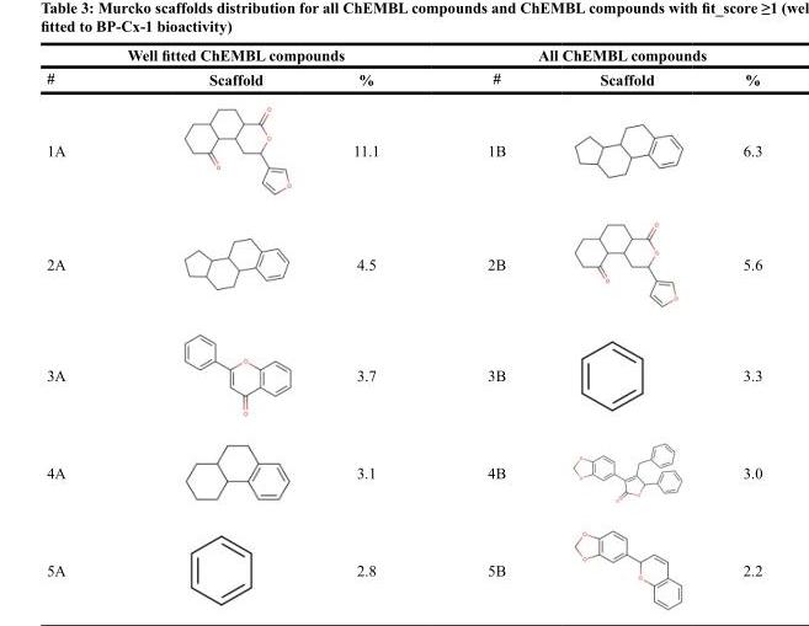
<table><thead><tr><td colspan="3">Well fitted ChEMBL compounds</td><td colspan="3">All ChEMBL compounds</td></tr><tr><td>#</td><td>Scaffold</td><td>%</td><td>#</td><td>Scaffold</td><td>%</td></tr></thead><tbody><tr><td>1A</td><td></td><td>11.1</td><td>1B</td><td></td><td>6.3</td></tr><tr><td>2A</td><td></td><td>4.5</td><td>2B</td><td></td><td>5.6</td></tr><tr><td>3A</td><td></td><td>3.7</td><td>3B</td><td></td><td>3.3</td></tr><tr><td>4A</td><td></td><td>3.1</td><td>4B</td><td></td><td>3.0</td></tr><tr><td>5A</td><td></td><td>2.8</td><td>5B</td><td></td><td>2.2</td></tr></tbody></table>